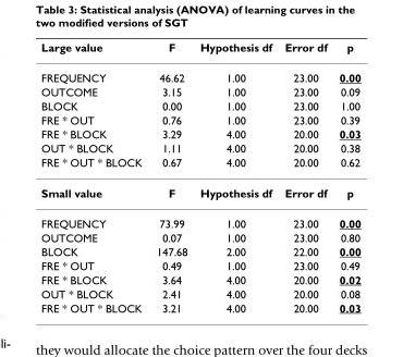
<table><thead><tr><td>Large value</td><td>F</td><td>Hypothesis df</td><td>Error df</td><td>p</td></tr></thead><tbody><tr><td>FREQUENCY</td><td>46.62</td><td>1.00</td><td>23.00</td><td>0.00</td></tr><tr><td>OUTCOME</td><td>3.15</td><td>1.00</td><td>23.00</td><td>0.09</td></tr><tr><td>BLOCK</td><td>0.00</td><td>1.00</td><td>23.00</td><td>1.00</td></tr><tr><td>FRE * OUT</td><td>0.76</td><td>1.00</td><td>23.00</td><td>0.39</td></tr><tr><td>FRE * BLOCK</td><td>3.29</td><td>4.00</td><td>20.00</td><td>0.03</td></tr><tr><td>OUT * BLOCK</td><td>1.11</td><td>4.00</td><td>20.00</td><td>0.38</td></tr><tr><td>FRE * OUT * BLOCK</td><td>0.67</td><td>4.00</td><td>20.00</td><td>0.62</td></tr><tr><td>Small value</td><td>F</td><td>Hypothesis df</td><td>Error df</td><td>p</td></tr><tr><td>FREQUENCY</td><td>73.99</td><td>1.00</td><td>23.00</td><td>0.00</td></tr><tr><td>OUTCOME</td><td>0.07</td><td>1.00</td><td>23.00</td><td>0.80</td></tr><tr><td>BLOCK</td><td>147.68</td><td>2.00</td><td>22.00</td><td>0.00</td></tr><tr><td>FRE * OUT</td><td>0.49</td><td>1.00</td><td>23.00</td><td>0.49</td></tr><tr><td>FRE * BLOCK</td><td>3.64</td><td>4.00</td><td>20.00</td><td>0.02</td></tr><tr><td>OUT * BLOCK</td><td>2.41</td><td>4.00</td><td>20.00</td><td>0.08</td></tr><tr><td>FRE * OUT * BLOCK</td><td>3.21</td><td>4.00</td><td>20.00</td><td>0.03</td></tr></tbody></table>